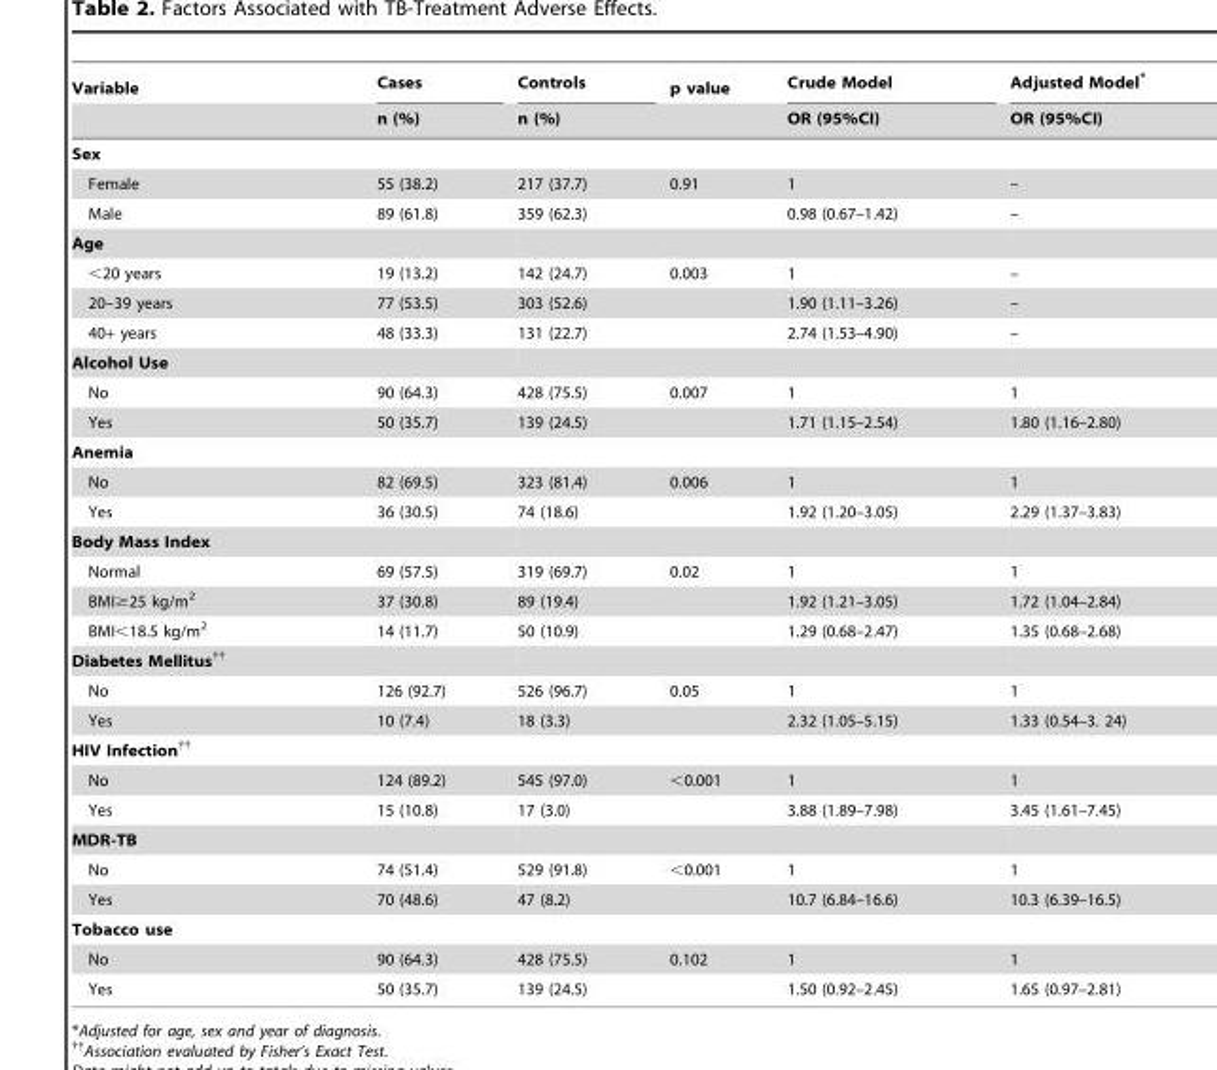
<table><thead><tr><td rowspan="2">Variable</td><td rowspan="2">Cases n (%)</td><td rowspan="2">Controls n (%)</td><td rowspan="2">p value</td><td rowspan="2">Crude Model OR (95%CI)</td><td rowspan="2">Adjusted Model* OR (95%CI)</td></tr><tr></tr></thead><tbody><tr><td colspan="6">Sex</td></tr><tr><td>Female</td><td>55 (38.2)</td><td>217 (37.7)</td><td>0.91</td><td>1</td><td>–</td></tr><tr><td>Male</td><td>89 (61.8)</td><td>359 (62.3)</td><td></td><td>0.98 (0.67–1.42)</td><td>–</td></tr><tr><td colspan="6">Age</td></tr><tr><td>&lt;20 years</td><td>19 (13.2)</td><td>142 (24.7)</td><td>0.003</td><td>1</td><td>–</td></tr><tr><td>20–39 years</td><td>77 (53.5)</td><td>303 (52.6)</td><td></td><td>1.90 (1.11–3.26)</td><td>–</td></tr><tr><td>40+ years</td><td>48 (33.3)</td><td>131 (22.7)</td><td></td><td>2.74 (1.53–4.90)</td><td>–</td></tr><tr><td colspan="6">Alcohol Use</td></tr><tr><td>No</td><td>90 (64.3)</td><td>428 (75.5)</td><td>0.007</td><td>1</td><td>1</td></tr><tr><td>Yes</td><td>50 (35.7)</td><td>139 (24.5)</td><td></td><td>1.71 (1.15–2.54)</td><td>1.80 (1.16–2.80)</td></tr><tr><td colspan="6">Anemia</td></tr><tr><td>No</td><td>82 (69.5)</td><td>323 (81.4)</td><td>0.006</td><td>1</td><td>1</td></tr><tr><td>Yes</td><td>36 (30.5)</td><td>74 (18.6)</td><td></td><td>1.92 (1.20–3.05)</td><td>2.29 (1.37–3.83)</td></tr><tr><td colspan="6">Body Mass Index</td></tr><tr><td>Normal</td><td>69 (57.5)</td><td>319 (69.7)</td><td>0.02</td><td>1</td><td>1</td></tr><tr><td>BMI≥25 kg/m<sup>2</sup></td><td>37 (30.8)</td><td>89 (19.4)</td><td></td><td>1.92 (1.21–3.05)</td><td>1.72 (1.04–2.84)</td></tr><tr><td>BMI&lt;18.5 kg/m<sup>2</sup></td><td>14 (11.7)</td><td>50 (10.9)</td><td></td><td>1.29 (0.68–2.47)</td><td>1.35 (0.68–2.68)</td></tr><tr><td colspan="6">Diabetes Mellitus††</td></tr><tr><td>No</td><td>126 (92.7)</td><td>526 (96.7)</td><td>0.05</td><td>1</td><td>1</td></tr><tr><td>Yes</td><td>10 (7.4)</td><td>18 (3.3)</td><td></td><td>2.32 (1.05–5.15)</td><td>1.33 (0.54–3. 24)</td></tr><tr><td colspan="6">HIV Infection††</td></tr><tr><td>No</td><td>124 (89.2)</td><td>545 (97.0)</td><td>&lt;0.001</td><td>1</td><td>1</td></tr><tr><td>Yes</td><td>15 (10.8)</td><td>17 (3.0)</td><td></td><td>3.88 (1.89–7.98)</td><td>3.45 (1.61–7.45)</td></tr><tr><td colspan="6">MDR-TB</td></tr><tr><td>No</td><td>74 (51.4)</td><td>529 (91.8)</td><td>&lt;0.001</td><td>1</td><td>1</td></tr><tr><td>Yes</td><td>70 (48.6)</td><td>47 (8.2)</td><td></td><td>10.7 (6.84–16.6)</td><td>10.3 (6.39–16.5)</td></tr><tr><td colspan="6">Tobacco use</td></tr><tr><td>No</td><td>90 (64.3)</td><td>428 (75.5)</td><td>0.102</td><td>1</td><td>1</td></tr><tr><td>Yes</td><td>50 (35.7)</td><td>139 (24.5)</td><td></td><td>1.50 (0.92–2.45)</td><td>1.65 (0.97–2.81)</td></tr></tbody></table>